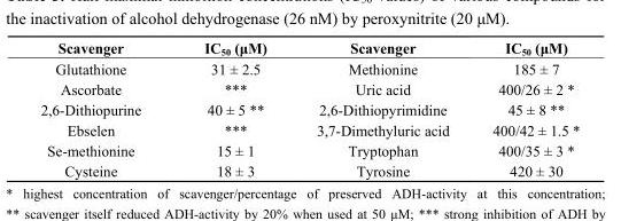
<table><thead><tr><td>Scavenger</td><td>IC<sub>50</sub> (μM)</td><td>Scavenger</td><td>IC<sub>50</sub> (μM)</td></tr></thead><tbody><tr><td>Glutathione</td><td>31 ± 2.5</td><td>Methionine</td><td>185 ± 7</td></tr><tr><td>Ascorbate</td><td>***</td><td>Uric acid</td><td>400/26 ± 2 *</td></tr><tr><td>2,6-Dithiopurine</td><td>40 ± 5 **</td><td>2,6-Dithiopyrimidine</td><td>45 ± 8 **</td></tr><tr><td>Ebselen</td><td>***</td><td>3,7-Dimethyluric acid</td><td>400/42 ± 1.5 *</td></tr><tr><td>Se-methionine</td><td>15 ± 1</td><td>Tryptophan</td><td>400/35 ± 3 *</td></tr><tr><td>Cysteine</td><td>18 ± 3</td><td>Tyrosine</td><td>420 ± 30</td></tr></tbody></table>